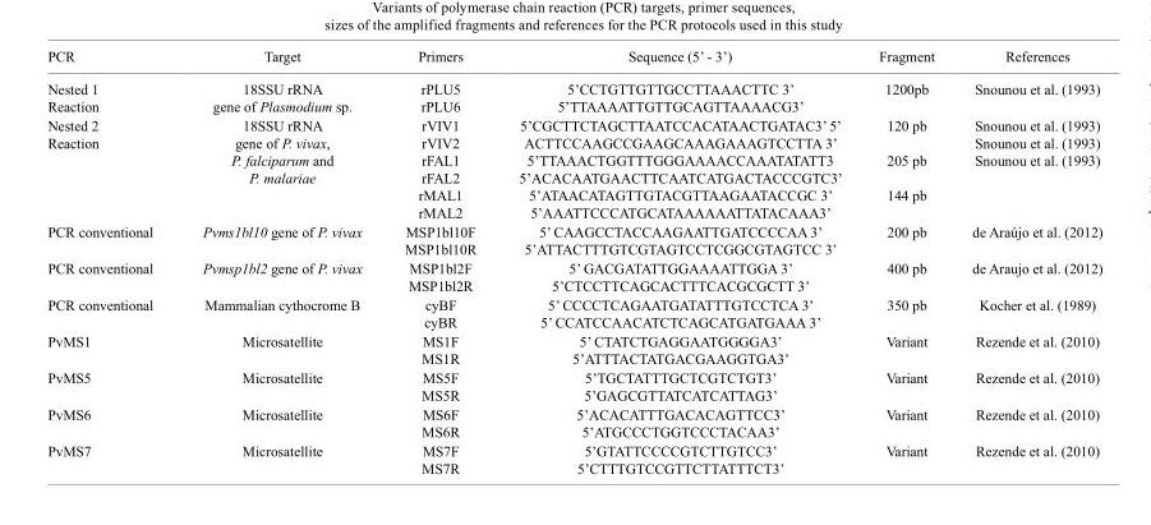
<table><thead><tr><td>PCR</td><td>Target</td><td>Primers</td><td>Sequence (5’ - 3’)</td><td>Fragment</td><td>References</td></tr></thead><tbody><tr><td>Nested 1 Reaction</td><td>18SSU rRNA gene of Plasmodium sp.</td><td>rPLU5 rPLU6</td><td>5’CCTGTTGTTGCCTTAAACTTC 3’ 5’TTAAAATTGTTGCAGTTAAAACG3’</td><td>1200pb</td><td>Snounou et al. (1993)</td></tr><tr><td>Nested 2 Reaction</td><td>18SSU rRNA gene of P. vivax, P. falciparum and P. malariae</td><td>rVIV1 rVIV2 rFAL1 rFAL2 rMAL1 rMAL2</td><td>5’CGCTTCTAGCTTAATCCACATAACTGATAC3’ 5’ ACTTCCAAGCCGAAGCAAAGAAAGTCCTTA 3’ 5’TTAAACTGGTTTGGGAAAACCAAATATATT3 5’ACACAATGAACTTCAATCATGACTACCCGTC3’ 5’ATAACATAGTTGTACGTTAAGAATACCGC 3’ 5’AAATTCCCATGCATAAAAAATTATACAAA3’</td><td>120 pb 205 pb 144 pb</td><td>Snounou et al. (1993) Snounou et al. (1993) Snounou et al. (1993)</td></tr><tr><td>PCR conventional</td><td>Pvms1bl10 gene of P. vivax</td><td>MSP1bl10F MSP1bl10R</td><td>5’ CAAGCCTACCAAGAATTGATCCCCAA 3’ 5’ATTACTTTGTCGTAGTCCTCGGCGTAGTCC 3’</td><td>200 pb</td><td>de Araújo et al. (2012)</td></tr><tr><td>PCR conventional</td><td>Pvmsp1bl2 gene of P. vivax</td><td>MSP1bl2F MSP1bl2R</td><td>5’ GACGATATTGGAAAATTGGA 3’ 5’CTCCTTCAGCACTTTCACGCGCTT 3’</td><td>400 pb</td><td>de Araujo et al. (2012)</td></tr><tr><td>PCR conventional</td><td>Mammalian cythocrome B</td><td>cyBF cyBR</td><td>5’ CCCCTCAGAATGATATTTGTCCTCA 3’ 5’ CCATCCAACATCTCAGCATGATGAAA 3’</td><td>350 pb</td><td>Kocher et al. (1989)</td></tr><tr><td>PvMS1</td><td>Microsatellite</td><td>MS1F MS1R</td><td>5’ CTATCTGAGGAATGGGGA3’ 5’ATTTACTATGACGAAGGTGA3’</td><td>Variant</td><td>Rezende et al. (2010)</td></tr><tr><td>PvMS5</td><td>Microsatellite</td><td>MS5F MS5R</td><td>5’TGCTATTTGCTCGTCTGT3’ 5’GAGCGTTATCATCATTAG3’</td><td>Variant</td><td>Rezende et al. (2010)</td></tr><tr><td>PvMS6</td><td>Microsatellite</td><td>MS6F MS6R</td><td>5’ACACATTTGACACAGTTCC3’ 5’ATGCCCTGGTCCCTACAA3’</td><td>Variant</td><td>Rezende et al. (2010)</td></tr><tr><td>PvMS7</td><td>Microsatellite</td><td>MS7F MS7R</td><td>5’GTATTCCCCGTCTTGTCC3’ 5’CTTTGTCCGTTCTTATTTCT3’</td><td>Variant</td><td>Rezende et al. (2010)</td></tr></tbody></table>